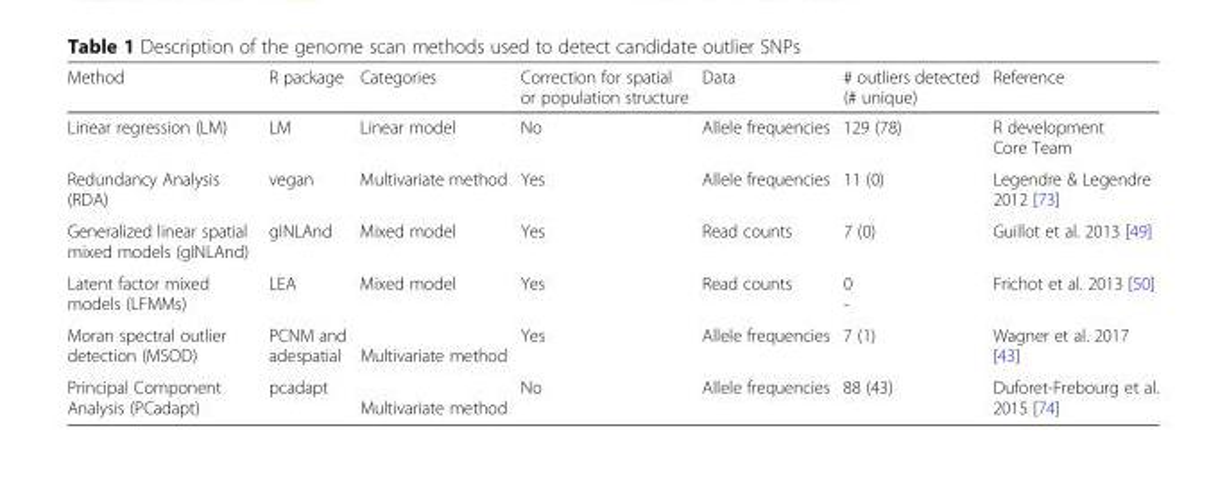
<table><thead><tr><td>Method</td><td>R package</td><td>Categories</td><td>Correction for spatial or population structure</td><td>Data</td><td># outliers detected (# unique)</td><td>Reference</td></tr></thead><tbody><tr><td>Linear regression (LM)</td><td>LM</td><td>Linear model</td><td>No</td><td>Allele frequencies</td><td>129 (78)</td><td>R development Core Team</td></tr><tr><td>Redundancy Analysis (RDA)</td><td>vegan</td><td>Multivariate method</td><td>Yes</td><td>Allele frequencies</td><td>11 (0)</td><td>Legendre &amp; Legendre 2012 [73]</td></tr><tr><td>Generalized linear spatial mixed models (gINLAnd)</td><td>gINLAnd</td><td>Mixed model</td><td>Yes</td><td>Read counts</td><td>7 (0)</td><td>Guillot et al. 2013 [49]</td></tr><tr><td>Latent factor mixed models (LFMMs)</td><td>LEA</td><td>Mixed model</td><td>Yes</td><td>Read counts</td><td>0 -</td><td>Frichot et al. 2013 [50]</td></tr><tr><td>Moran spectral outlier detection (MSOD)</td><td>PCNM and adespatial</td><td>Multivariate method</td><td>Yes</td><td>Allele frequencies</td><td>7 (1)</td><td>Wagner et al. 2017 [43]</td></tr><tr><td>Principal Component Analysis (PCadapt)</td><td>pcadapt</td><td>Multivariate method</td><td>No</td><td>Allele frequencies</td><td>88 (43)</td><td>Duforet-Frebourg et al. 2015 [74]</td></tr></tbody></table>